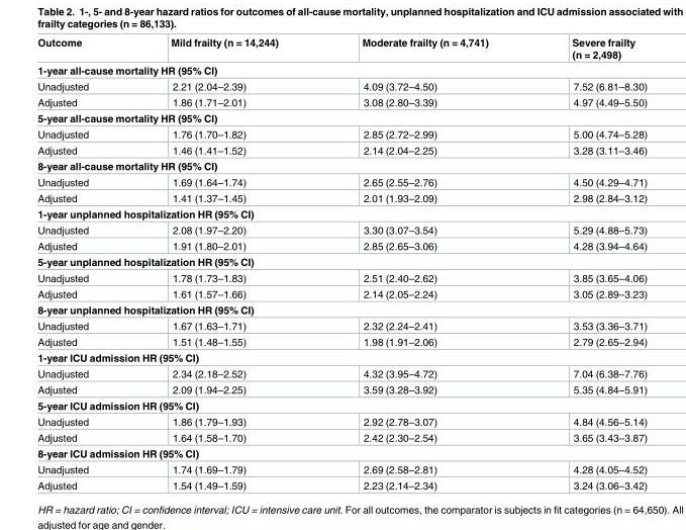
<table><thead><tr><td>Outcome</td><td>Mild frailty (n = 14,244)</td><td>Moderate frailty (n = 4,741)</td><td>Severe frailty (n = 2,498)</td></tr></thead><tbody><tr><td colspan="4">1-year all-cause mortality HR (95% CI)</td></tr><tr><td>Unadjusted</td><td>2.21 (2.04–2.39)</td><td>4.09 (3.72–4.50)</td><td>7.52 (6.81–8.30)</td></tr><tr><td>Adjusted</td><td>1.86 (1.71–2.01)</td><td>3.08 (2.80–3.39)</td><td>4.97 (4.49–5.50)</td></tr><tr><td colspan="4">5-year all-cause mortality HR (95% CI)</td></tr><tr><td>Unadjusted</td><td>1.76 (1.70–1.82)</td><td>2.85 (2.72–2.99)</td><td>5.00 (4.74–5.28)</td></tr><tr><td>Adjusted</td><td>1.46 (1.41–1.52)</td><td>2.14 (2.04–2.25)</td><td>3.28 (3.11–3.46)</td></tr><tr><td colspan="4">8-year all-cause mortality HR (95% CI)</td></tr><tr><td>Unadjusted</td><td>1.69 (1.64–1.74)</td><td>2.65 (2.55–2.76)</td><td>4.50 (4.29–4.71)</td></tr><tr><td>Adjusted</td><td>1.41 (1.37–1.45)</td><td>2.01 (1.93–2.09)</td><td>2.98 (2.84–3.12)</td></tr><tr><td colspan="4">1-year unplanned hospitalization HR (95% CI)</td></tr><tr><td>Unadjusted</td><td>2.08 (1.97–2.20)</td><td>3.30 (3.07–3.54)</td><td>5.29 (4.88–5.73)</td></tr><tr><td>Adjusted</td><td>1.91 (1.80–2.01)</td><td>2.85 (2.65–3.06)</td><td>4.28 (3.94–4.64)</td></tr><tr><td colspan="4">5-year unplanned hospitalization HR (95% CI)</td></tr><tr><td>Unadjusted</td><td>1.78 (1.73–1.83)</td><td>2.51 (2.40–2.62)</td><td>3.85 (3.65–4.06)</td></tr><tr><td>Adjusted</td><td>1.61 (1.57–1.66)</td><td>2.14 (2.05–2.24)</td><td>3.05 (2.89–3.23)</td></tr><tr><td colspan="4">8-year unplanned hospitalization HR (95% CI)</td></tr><tr><td>Unadjusted</td><td>1.67 (1.63–1.71)</td><td>2.32 (2.24–2.41)</td><td>3.53 (3.36–3.71)</td></tr><tr><td>Adjusted</td><td>1.51 (1.48–1.55)</td><td>1.98 (1.91–2.06)</td><td>2.79 (2.65–2.94)</td></tr><tr><td colspan="4">1-year ICU admission HR (95% CI)</td></tr><tr><td>Unadjusted</td><td>2.34 (2.18–2.52)</td><td>4.32 (3.95–4.72)</td><td>7.04 (6.38–7.76)</td></tr><tr><td>Adjusted</td><td>2.09 (1.94–2.25)</td><td>3.59 (3.28–3.92)</td><td>5.35 (4.84–5.91)</td></tr><tr><td colspan="4">5-year ICU admission HR (95% CI)</td></tr><tr><td>Unadjusted</td><td>1.86 (1.79–1.93)</td><td>2.92 (2.78–3.07)</td><td>4.84 (4.56–5.14)</td></tr><tr><td>Adjusted</td><td>1.64 (1.58–1.70)</td><td>2.42 (2.30–2.54)</td><td>3.65 (3.43–3.87)</td></tr><tr><td colspan="4">8-year ICU admission HR (95% CI)</td></tr><tr><td>Unadjusted</td><td>1.74 (1.69–1.79)</td><td>2.69 (2.58–2.81)</td><td>4.28 (4.05–4.52)</td></tr><tr><td>Adjusted</td><td>1.54 (1.49–1.59)</td><td>2.23 (2.14–2.34)</td><td>3.24 (3.06–3.42)</td></tr></tbody></table>